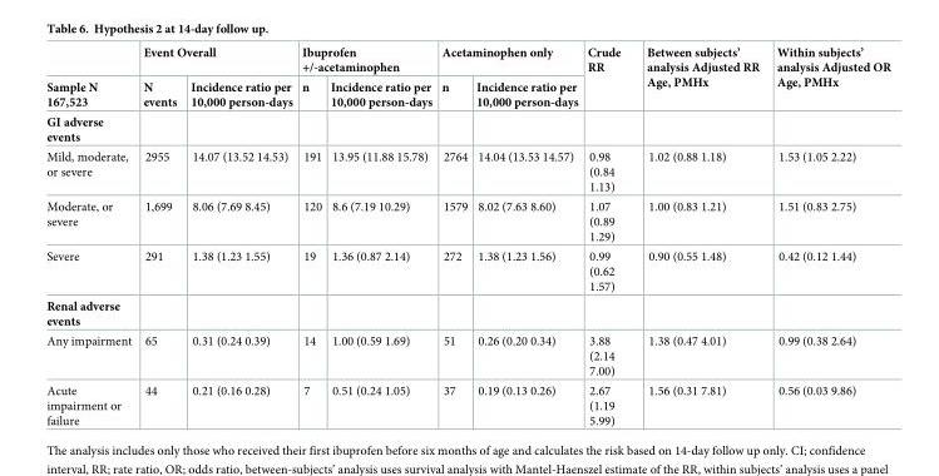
<table><thead><tr><td rowspan="2">Sample N 167,523</td><td colspan="2">Event Overall</td><td colspan="2">Ibuprofen +/-acetaminophen</td><td colspan="2">Acetaminophen only</td><td rowspan="2">Crude RR</td><td rowspan="2">Between subjects’ analysis Adjusted RR Age, PMHx</td><td rowspan="2">Within subjects’ analysis Adjusted OR Age, PMHx</td></tr><tr><td>N events</td><td>Incidence ratio per 10,000 person-days</td><td>n</td><td>Incidence ratio per 10,000 person-days</td><td>n</td><td>Incidence ratio per 10,000 person-days</td></tr></thead><tbody><tr><td colspan="10">GI adverse events</td></tr><tr><td>Mild, moderate, or severe</td><td>2955</td><td>14.07 (13.52 14.53)</td><td>191</td><td>13.95 (11.88 15.78)</td><td>2764</td><td>14.04 (13.53 14.57)</td><td>0.98 (0.84 1.13)</td><td>1.02 (0.88 1.18)</td><td>1.53 (1.05 2.22)</td></tr><tr><td>Moderate, or severe</td><td>1,699</td><td>8.06 (7.69 8.45)</td><td>120</td><td>8.6 (7.19 10.29)</td><td>1579</td><td>8.02 (7.63 8.60)</td><td>1.07 (0.89 1.29)</td><td>1.00 (0.83 1.21)</td><td>1.51 (0.83 2.75)</td></tr><tr><td>Severe</td><td>291</td><td>1.38 (1.23 1.55)</td><td>19</td><td>1.36 (0.87 2.14)</td><td>272</td><td>1.38 (1.23 1.56)</td><td>0.99 (0.62 1.57)</td><td>0.90 (0.55 1.48)</td><td>0.42 (0.12 1.44)</td></tr><tr><td colspan="10">Renal adverse events</td></tr><tr><td>Any impairment</td><td>65</td><td>0.31 (0.24 0.39)</td><td>14</td><td>1.00 (0.59 1.69)</td><td>51</td><td>0.26 (0.20 0.34)</td><td>3.88 (2.14 7.00)</td><td>1.38 (0.47 4.01)</td><td>0.99 (0.38 2.64)</td></tr><tr><td>Acute impairment or failure</td><td>44</td><td>0.21 (0.16 0.28)</td><td>7</td><td>0.51 (0.24 1.05)</td><td>37</td><td>0.19 (0.13 0.26)</td><td>2.67 (1.19 5.99)</td><td>1.56 (0.31 7.81)</td><td>0.56 (0.03 9.86)</td></tr></tbody></table>